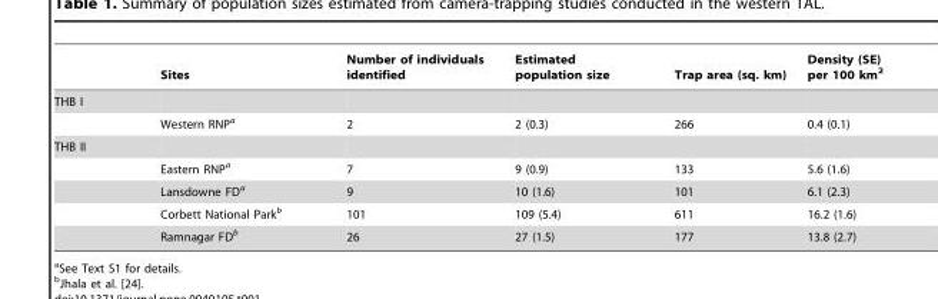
<table><thead><tr><td></td><td>Sites</td><td>Number of individuals identified</td><td>Estimated population size</td><td>Trap area (sq. km)</td><td>Density (SE) per 100 km<sup>2</sup></td></tr></thead><tbody><tr><td colspan="6">THB I</td></tr><tr><td></td><td>Western RNP<sup>a</sup></td><td>2</td><td>2 (0.3)</td><td>266</td><td>0.4 (0.1)</td></tr><tr><td colspan="6">THB II</td></tr><tr><td></td><td>Eastern RNP<sup>a</sup></td><td>7</td><td>9 (0.9)</td><td>133</td><td>5.6 (1.6)</td></tr><tr><td></td><td>Lansdowne FD<sup>a</sup></td><td>9</td><td>10 (1.6)</td><td>101</td><td>6.1 (2.3)</td></tr><tr><td></td><td>Corbett National Park<sup>b</sup></td><td>101</td><td>109 (5.4)</td><td>611</td><td>16.2 (1.6)</td></tr><tr><td></td><td>Ramnagar FD<sup>b</sup></td><td>26</td><td>27 (1.5)</td><td>177</td><td>13.8 (2.7)</td></tr></tbody></table>